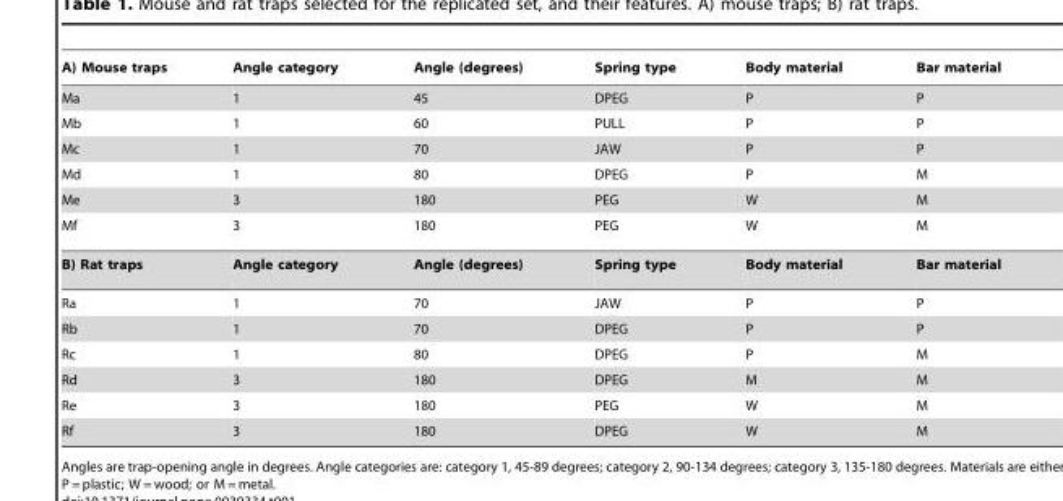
<table><thead><tr><td>A) Mouse traps</td><td>Angle category</td><td>Angle (degrees)</td><td>Spring type</td><td>Body material</td><td>Bar material</td></tr></thead><tbody><tr><td>Ma</td><td>1</td><td>45</td><td>DPEG</td><td>P</td><td>P</td></tr><tr><td>Mb</td><td>1</td><td>60</td><td>PULL</td><td>P</td><td>P</td></tr><tr><td>Mc</td><td>1</td><td>70</td><td>JAW</td><td>P</td><td>P</td></tr><tr><td>Md</td><td>1</td><td>80</td><td>DPEG</td><td>P</td><td>M</td></tr><tr><td>Me</td><td>3</td><td>180</td><td>PEG</td><td>W</td><td>M</td></tr><tr><td>Mf</td><td>3</td><td>180</td><td>PEG</td><td>W</td><td>M</td></tr><tr><td>B) Rat traps</td><td>Angle category</td><td>Angle (degrees)</td><td>Spring type</td><td>Body material</td><td>Bar material</td></tr><tr><td>Ra</td><td>1</td><td>70</td><td>JAW</td><td>P</td><td>P</td></tr><tr><td>Rb</td><td>1</td><td>70</td><td>DPEG</td><td>P</td><td>P</td></tr><tr><td>Rc</td><td>1</td><td>80</td><td>DPEG</td><td>P</td><td>M</td></tr><tr><td>Rd</td><td>3</td><td>180</td><td>DPEG</td><td>M</td><td>M</td></tr><tr><td>Re</td><td>3</td><td>180</td><td>PEG</td><td>W</td><td>M</td></tr><tr><td>Rf</td><td>3</td><td>180</td><td>DPEG</td><td>W</td><td>M</td></tr></tbody></table>